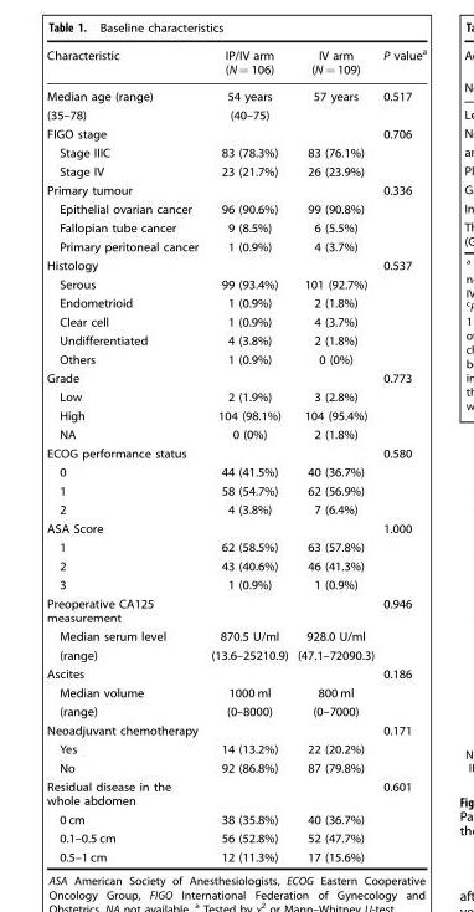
<table><thead><tr><td>Characteristic</td><td>IP/IV arm (N = 106)</td><td>IV arm (N = 109)</td><td>P value<sup>a</sup></td></tr></thead><tbody><tr><td>Median age (range)</td><td>54 years</td><td>57 years</td><td>0.517</td></tr><tr><td>(35–78)</td><td>(40–75)</td><td></td><td></td></tr><tr><td>FIGO stage</td><td></td><td></td><td>0.706</td></tr><tr><td>Stage IIIC</td><td>83 (78.3%)</td><td>83 (76.1%)</td><td></td></tr><tr><td>Stage IV</td><td>23 (21.7%)</td><td>26 (23.9%)</td><td></td></tr><tr><td>Primary tumour</td><td></td><td></td><td>0.336</td></tr><tr><td>Epithelial ovarian cancer</td><td>96 (90.6%)</td><td>99 (90.8%)</td><td></td></tr><tr><td>Fallopian tube cancer</td><td>9 (8.5%)</td><td>6 (5.5%)</td><td></td></tr><tr><td>Primary peritoneal cancer</td><td>1 (0.9%)</td><td>4 (3.7%)</td><td></td></tr><tr><td>Histology</td><td></td><td></td><td>0.537</td></tr><tr><td>Serous</td><td>99 (93.4%)</td><td>101 (92.7%)</td><td></td></tr><tr><td>Endometrioid</td><td>1 (0.9%)</td><td>2 (1.8%)</td><td></td></tr><tr><td>Clear cell</td><td>1 (0.9%)</td><td>4 (3.7%)</td><td></td></tr><tr><td>Undifferentiated</td><td>4 (3.8%)</td><td>2 (1.8%)</td><td></td></tr><tr><td>Others</td><td>1 (0.9%)</td><td>0 (0%)</td><td></td></tr><tr><td>Grade</td><td></td><td></td><td>0.773</td></tr><tr><td>Low</td><td>2 (1.9%)</td><td>3 (2.8%)</td><td></td></tr><tr><td>High</td><td>104 (98.1%)</td><td>104 (95.4%)</td><td></td></tr><tr><td>NA</td><td>0 (0%)</td><td>2 (1.8%)</td><td></td></tr><tr><td>ECOG performance status</td><td></td><td></td><td>0.580</td></tr><tr><td>0</td><td>44 (41.5%)</td><td>40 (36.7%)</td><td></td></tr><tr><td>1</td><td>58 (54.7%)</td><td>62 (56.9%)</td><td></td></tr><tr><td>2</td><td>4 (3.8%)</td><td>7 (6.4%)</td><td></td></tr><tr><td>ASA Score</td><td></td><td></td><td>1.000</td></tr><tr><td>1</td><td>62 (58.5%)</td><td>63 (57.8%)</td><td></td></tr><tr><td>2</td><td>43 (40.6%)</td><td>46 (41.3%)</td><td></td></tr><tr><td>3</td><td>1 (0.9%)</td><td>1 (0.9%)</td><td></td></tr><tr><td>Preoperative CA125 measurement</td><td></td><td></td><td>0.946</td></tr><tr><td>Median serum level</td><td>870.5 U/ml</td><td>928.0 U/ml</td><td></td></tr><tr><td>(range)</td><td>(13.6–25210.9)</td><td>(47.1–72090.3)</td><td></td></tr><tr><td>Ascites</td><td></td><td></td><td>0.186</td></tr><tr><td>Median volume</td><td>1000 ml</td><td>800 ml</td><td></td></tr><tr><td>(range)</td><td>(0–8000)</td><td>(0–7000)</td><td></td></tr><tr><td>Neoadjuvant chemotherapy</td><td></td><td></td><td>0.171</td></tr><tr><td>Yes</td><td>14 (13.2%)</td><td>22 (20.2%)</td><td></td></tr><tr><td>No</td><td>92 (86.8%)</td><td>87 (79.8%)</td><td></td></tr><tr><td>Residual disease in the whole abdomen</td><td></td><td></td><td>0.601</td></tr><tr><td>0 cm</td><td>38 (35.8%)</td><td>40 (36.7%)</td><td></td></tr><tr><td>0.1–0.5 cm</td><td>56 (52.8%)</td><td>52 (47.7%)</td><td></td></tr><tr><td>0.5–1 cm</td><td>12 (11.3%)</td><td>17 (15.6%)</td><td></td></tr></tbody></table>